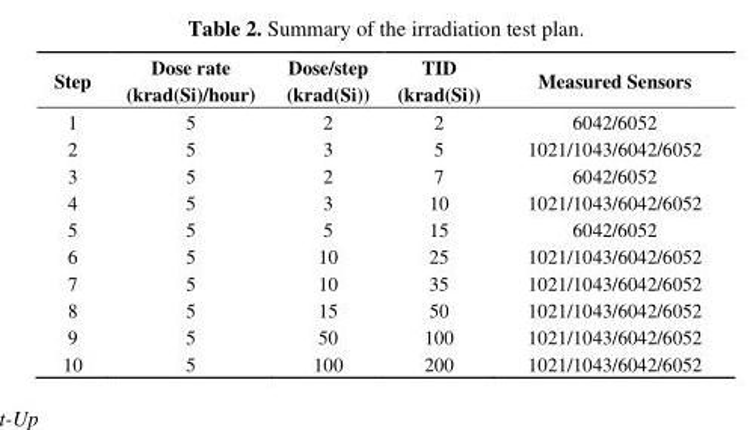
<table><thead><tr><td>Step</td><td>Dose rate (krad(Si)/hour)</td><td>Dose/step (krad(Si))</td><td>TID (krad(Si))</td><td>Measured Sensors</td></tr></thead><tbody><tr><td>1</td><td>5</td><td>2</td><td>2</td><td>6042/6052</td></tr><tr><td>2</td><td>5</td><td>3</td><td>5</td><td>1021/1043/6042/6052</td></tr><tr><td>3</td><td>5</td><td>2</td><td>7</td><td>6042/6052</td></tr><tr><td>4</td><td>5</td><td>3</td><td>10</td><td>1021/1043/6042/6052</td></tr><tr><td>5</td><td>5</td><td>5</td><td>15</td><td>6042/6052</td></tr><tr><td>6</td><td>5</td><td>10</td><td>25</td><td>1021/1043/6042/6052</td></tr><tr><td>7</td><td>5</td><td>10</td><td>35</td><td>1021/1043/6042/6052</td></tr><tr><td>8</td><td>5</td><td>15</td><td>50</td><td>1021/1043/6042/6052</td></tr><tr><td>9</td><td>5</td><td>50</td><td>100</td><td>1021/1043/6042/6052</td></tr><tr><td>10</td><td>5</td><td>100</td><td>200</td><td>1021/1043/6042/6052</td></tr></tbody></table>